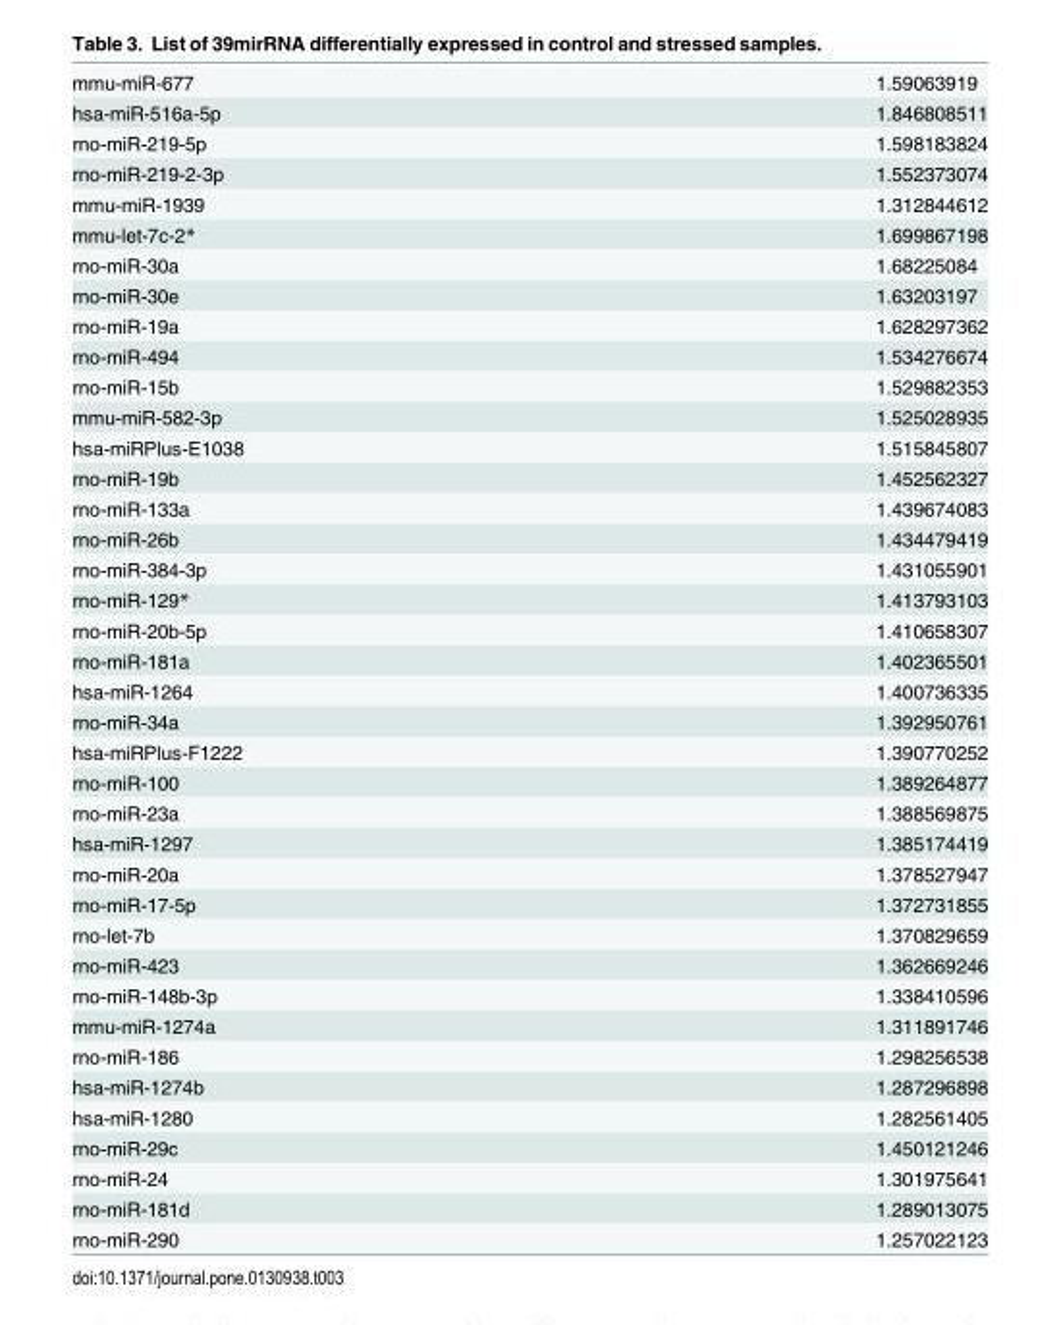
<table><tbody><tr><td>mmu-miR-677</td><td>1.59063919</td></tr><tr><td>hsa-miR-516a-5p</td><td>1.846808511</td></tr><tr><td>rno-miR-219-5p</td><td>1.598183824</td></tr><tr><td>rno-miR-219-2-3p</td><td>1.552373074</td></tr><tr><td>mmu-miR-1939</td><td>1.312844612</td></tr><tr><td>mmu-let-7c-2*</td><td>1.699867198</td></tr><tr><td>rno-miR-30a</td><td>1.68225084</td></tr><tr><td>rno-miR-30e</td><td>1.63203197</td></tr><tr><td>rno-miR-19a</td><td>1.628297362</td></tr><tr><td>rno-miR-494</td><td>1.534276674</td></tr><tr><td>rno-miR-15b</td><td>1.529882353</td></tr><tr><td>mmu-miR-582-3p</td><td>1.525028935</td></tr><tr><td>hsa-miRPlus-E1038</td><td>1.515845807</td></tr><tr><td>rno-miR-19b</td><td>1.452562327</td></tr><tr><td>rno-miR-133a</td><td>1.439674083</td></tr><tr><td>rno-miR-26b</td><td>1.434479419</td></tr><tr><td>rno-miR-384-3p</td><td>1.431055901</td></tr><tr><td>rno-miR-129*</td><td>1.413793103</td></tr><tr><td>rno-miR-20b-5p</td><td>1.410658307</td></tr><tr><td>rno-miR-181a</td><td>1.402365501</td></tr><tr><td>hsa-miR-1264</td><td>1.400736335</td></tr><tr><td>rno-miR-34a</td><td>1.392950761</td></tr><tr><td>hsa-miRPlus-F1222</td><td>1.390770252</td></tr><tr><td>rno-miR-100</td><td>1.389264877</td></tr><tr><td>rno-miR-23a</td><td>1.388569875</td></tr><tr><td>hsa-miR-1297</td><td>1.385174419</td></tr><tr><td>rno-miR-20a</td><td>1.378527947</td></tr><tr><td>rno-miR-17-5p</td><td>1.372731855</td></tr><tr><td>rno-let-7b</td><td>1.370829659</td></tr><tr><td>rno-miR-423</td><td>1.362669246</td></tr><tr><td>rno-miR-148b-3p</td><td>1.338410596</td></tr><tr><td>mmu-miR-1274a</td><td>1.311891746</td></tr><tr><td>rno-miR-186</td><td>1.298256538</td></tr><tr><td>hsa-miR-1274b</td><td>1.287296898</td></tr><tr><td>hsa-miR-1280</td><td>1.282561405</td></tr><tr><td>rno-miR-29c</td><td>1.450121246</td></tr><tr><td>rno-miR-24</td><td>1.301975641</td></tr><tr><td>rno-miR-181d</td><td>1.289013075</td></tr><tr><td>rno-miR-290</td><td>1.257022123</td></tr></tbody></table>